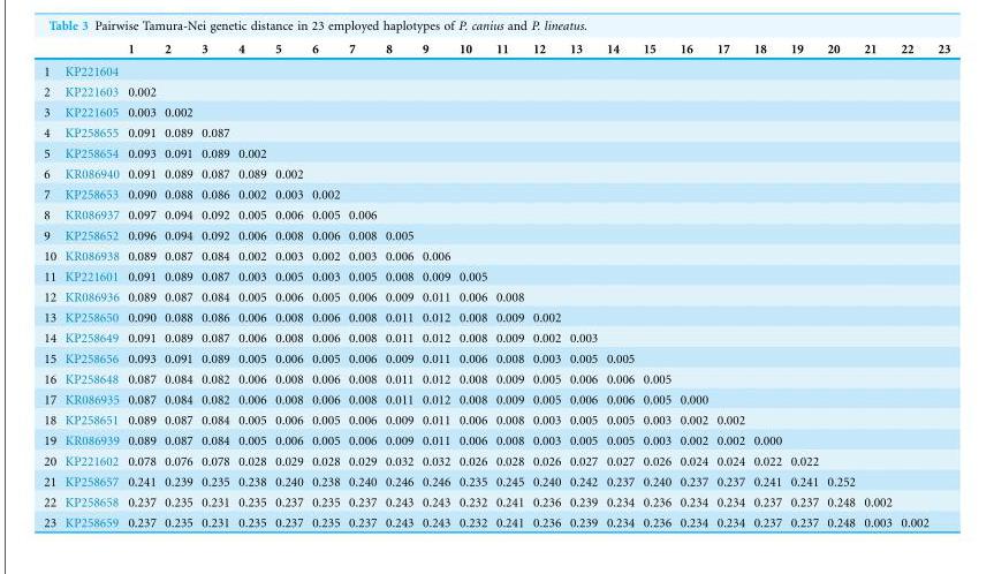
<table><thead><tr><td></td><td></td><td>1</td><td>2</td><td>3</td><td>4</td><td>5</td><td>6</td><td>7</td><td>8</td><td>9</td><td>10</td><td>11</td><td>12</td><td>13</td><td>14</td><td>15</td><td>16</td><td>17</td><td>18</td><td>19</td><td>20</td><td>21</td><td>22</td><td>23</td></tr></thead><tbody><tr><td>1</td><td>KP221604</td><td></td><td></td><td></td><td></td><td></td><td></td><td></td><td></td><td></td><td></td><td></td><td></td><td></td><td></td><td></td><td></td><td></td><td></td><td></td><td></td><td></td><td></td><td></td></tr><tr><td>2</td><td>KP221603</td><td>0.002</td><td></td><td></td><td></td><td></td><td></td><td></td><td></td><td></td><td></td><td></td><td></td><td></td><td></td><td></td><td></td><td></td><td></td><td></td><td></td><td></td><td></td><td></td></tr><tr><td>3</td><td>KP221605</td><td>0.003</td><td>0.002</td><td></td><td></td><td></td><td></td><td></td><td></td><td></td><td></td><td></td><td></td><td></td><td></td><td></td><td></td><td></td><td></td><td></td><td></td><td></td><td></td><td></td></tr><tr><td>4</td><td>KP258655</td><td>0.091</td><td>0.089</td><td>0.087</td><td></td><td></td><td></td><td></td><td></td><td></td><td></td><td></td><td></td><td></td><td></td><td></td><td></td><td></td><td></td><td></td><td></td><td></td><td></td><td></td></tr><tr><td>5</td><td>KP258654</td><td>0.093</td><td>0.091</td><td>0.089</td><td>0.002</td><td></td><td></td><td></td><td></td><td></td><td></td><td></td><td></td><td></td><td></td><td></td><td></td><td></td><td></td><td></td><td></td><td></td><td></td><td></td></tr><tr><td>6</td><td>KR086940</td><td>0.091</td><td>0.089</td><td>0.087</td><td>0.089</td><td>0.002</td><td></td><td></td><td></td><td></td><td></td><td></td><td></td><td></td><td></td><td></td><td></td><td></td><td></td><td></td><td></td><td></td><td></td><td></td></tr><tr><td>7</td><td>KP258653</td><td>0.090</td><td>0.088</td><td>0.086</td><td>0.002</td><td>0.003</td><td>0.002</td><td></td><td></td><td></td><td></td><td></td><td></td><td></td><td></td><td></td><td></td><td></td><td></td><td></td><td></td><td></td><td></td><td></td></tr><tr><td>8</td><td>KR086937</td><td>0.097</td><td>0.094</td><td>0.092</td><td>0.005</td><td>0.006</td><td>0.005</td><td>0.006</td><td></td><td></td><td></td><td></td><td></td><td></td><td></td><td></td><td></td><td></td><td></td><td></td><td></td><td></td><td></td><td></td></tr><tr><td>9</td><td>KP258652</td><td>0.096</td><td>0.094</td><td>0.092</td><td>0.006</td><td>0.008</td><td>0.006</td><td>0.008</td><td>0.005</td><td></td><td></td><td></td><td></td><td></td><td></td><td></td><td></td><td></td><td></td><td></td><td></td><td></td><td></td><td></td></tr><tr><td>10</td><td>KR086938</td><td>0.089</td><td>0.087</td><td>0.084</td><td>0.002</td><td>0.003</td><td>0.002</td><td>0.003</td><td>0.006</td><td>0.006</td><td></td><td></td><td></td><td></td><td></td><td></td><td></td><td></td><td></td><td></td><td></td><td></td><td></td><td></td></tr><tr><td>11</td><td>KP221601</td><td>0.091</td><td>0.089</td><td>0.087</td><td>0.003</td><td>0.005</td><td>0.003</td><td>0.005</td><td>0.008</td><td>0.009</td><td>0.005</td><td></td><td></td><td></td><td></td><td></td><td></td><td></td><td></td><td></td><td></td><td></td><td></td><td></td></tr><tr><td>12</td><td>KR086936</td><td>0.089</td><td>0.087</td><td>0.084</td><td>0.005</td><td>0.006</td><td>0.005</td><td>0.006</td><td>0.009</td><td>0.011</td><td>0.006</td><td>0.008</td><td></td><td></td><td></td><td></td><td></td><td></td><td></td><td></td><td></td><td></td><td></td><td></td></tr><tr><td>13</td><td>KP258650</td><td>0.090</td><td>0.088</td><td>0.086</td><td>0.006</td><td>0.008</td><td>0.006</td><td>0.008</td><td>0.011</td><td>0.012</td><td>0.008</td><td>0.009</td><td>0.002</td><td></td><td></td><td></td><td></td><td></td><td></td><td></td><td></td><td></td><td></td><td></td></tr><tr><td>14</td><td>KP258649</td><td>0.091</td><td>0.089</td><td>0.087</td><td>0.006</td><td>0.008</td><td>0.006</td><td>0.008</td><td>0.011</td><td>0.012</td><td>0.008</td><td>0.009</td><td>0.002</td><td>0.003</td><td></td><td></td><td></td><td></td><td></td><td></td><td></td><td></td><td></td><td></td></tr><tr><td>15</td><td>KP258656</td><td>0.093</td><td>0.091</td><td>0.089</td><td>0.005</td><td>0.006</td><td>0.005</td><td>0.006</td><td>0.009</td><td>0.011</td><td>0.006</td><td>0.008</td><td>0.003</td><td>0.005</td><td>0.005</td><td></td><td></td><td></td><td></td><td></td><td></td><td></td><td></td><td></td></tr><tr><td>16</td><td>KP258648</td><td>0.087</td><td>0.084</td><td>0.082</td><td>0.006</td><td>0.008</td><td>0.006</td><td>0.008</td><td>0.011</td><td>0.012</td><td>0.008</td><td>0.009</td><td>0.005</td><td>0.006</td><td>0.006</td><td>0.005</td><td></td><td></td><td></td><td></td><td></td><td></td><td></td><td></td></tr><tr><td>17</td><td>KR086935</td><td>0.087</td><td>0.084</td><td>0.082</td><td>0.006</td><td>0.008</td><td>0.006</td><td>0.008</td><td>0.011</td><td>0.012</td><td>0.008</td><td>0.009</td><td>0.005</td><td>0.006</td><td>0.006</td><td>0.005</td><td>0.000</td><td></td><td></td><td></td><td></td><td></td><td></td><td></td></tr><tr><td>18</td><td>KP258651</td><td>0.089</td><td>0.087</td><td>0.084</td><td>0.005</td><td>0.006</td><td>0.005</td><td>0.006</td><td>0.009</td><td>0.011</td><td>0.006</td><td>0.008</td><td>0.003</td><td>0.005</td><td>0.005</td><td>0.003</td><td>0.002</td><td>0.002</td><td></td><td></td><td></td><td></td><td></td><td></td></tr><tr><td>19</td><td>KR086939</td><td>0.089</td><td>0.087</td><td>0.084</td><td>0.005</td><td>0.006</td><td>0.005</td><td>0.006</td><td>0.009</td><td>0.011</td><td>0.006</td><td>0.008</td><td>0.003</td><td>0.005</td><td>0.005</td><td>0.003</td><td>0.002</td><td>0.002</td><td>0.000</td><td></td><td></td><td></td><td></td><td></td></tr><tr><td>20</td><td>KP221602</td><td>0.078</td><td>0.076</td><td>0.078</td><td>0.028</td><td>0.029</td><td>0.028</td><td>0.029</td><td>0.032</td><td>0.032</td><td>0.026</td><td>0.028</td><td>0.026</td><td>0.027</td><td>0.027</td><td>0.026</td><td>0.024</td><td>0.024</td><td>0.022</td><td>0.022</td><td></td><td></td><td></td><td></td></tr><tr><td>21</td><td>KP258657</td><td>0.241</td><td>0.239</td><td>0.235</td><td>0.238</td><td>0.240</td><td>0.238</td><td>0.240</td><td>0.246</td><td>0.246</td><td>0.235</td><td>0.245</td><td>0.240</td><td>0.242</td><td>0.237</td><td>0.240</td><td>0.237</td><td>0.237</td><td>0.241</td><td>0.241</td><td>0.252</td><td></td><td></td><td></td></tr><tr><td>22</td><td>KP258658</td><td>0.237</td><td>0.235</td><td>0.231</td><td>0.235</td><td>0.237</td><td>0.235</td><td>0.237</td><td>0.243</td><td>0.243</td><td>0.232</td><td>0.241</td><td>0.236</td><td>0.239</td><td>0.234</td><td>0.236</td><td>0.234</td><td>0.234</td><td>0.237</td><td>0.237</td><td>0.248</td><td>0.002</td><td></td><td></td></tr><tr><td>23</td><td>KP258659</td><td>0.237</td><td>0.235</td><td>0.231</td><td>0.235</td><td>0.237</td><td>0.235</td><td>0.237</td><td>0.243</td><td>0.243</td><td>0.232</td><td>0.241</td><td>0.236</td><td>0.239</td><td>0.234</td><td>0.236</td><td>0.234</td><td>0.234</td><td>0.237</td><td>0.237</td><td>0.248</td><td>0.003</td><td>0.002</td><td></td></tr></tbody></table>